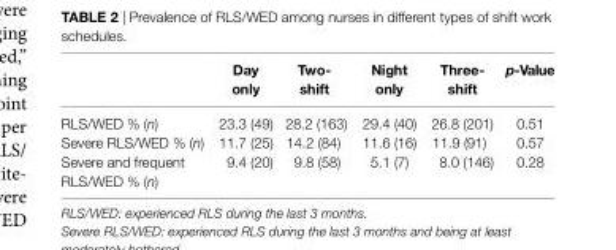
<table><thead><tr><td></td><td>Day only</td><td>Two- shift</td><td>night only</td><td>Three- shift</td><td>p-Value</td></tr></thead><tbody><tr><td>RLS/WED % (n)</td><td>23.3 (49)</td><td>28.2 (163)</td><td>29.4 (40)</td><td>26.8 (201)</td><td>0.51</td></tr><tr><td>Severe RLS/WED % (n)</td><td>11.7 (25)</td><td>14.2 (84)</td><td>11.6 (16)</td><td>11.9 (91)</td><td>0.57</td></tr><tr><td>Severe and frequent RLS/WED % (n)</td><td>9.4 (20)</td><td>9.8 (58)</td><td>5.1 (7)</td><td>8.0 (146)</td><td>0.28</td></tr></tbody></table>